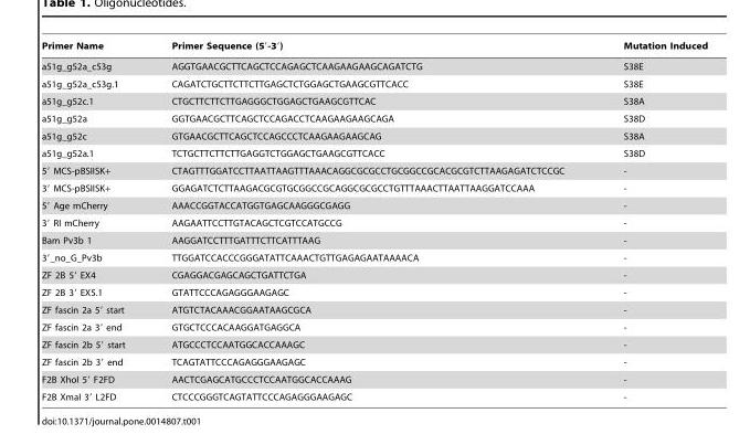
<table><thead><tr><td>Primer Name</td><td>Primer Sequence (5′-3′)</td><td>Mutation Induced</td></tr></thead><tbody><tr><td>a51g_g52a_c53g</td><td>AGGTGAACGCTTCAGCTCCAGAGCTCAAGAAGAAGCAGATCTG</td><td>S38E</td></tr><tr><td>a51g_g52a_c53g.1</td><td>CAGATCTGCTTCTTCTTGAGCTCTGGAGCTGAAGCGTTCACC</td><td>S38E</td></tr><tr><td>a51g_g52c.1</td><td>CTGCTTCTTCTTGAGGGCTGGAGCTGAAGCGTTCAC</td><td>S38A</td></tr><tr><td>a51g_g52a</td><td>GGTGAACGCTTCAGCTCCAGACCTCAAGAAGAAGCAGA</td><td>S38D</td></tr><tr><td>a51g_g52c</td><td>GTGAACGCTTCAGCTCCAGCCCTCAAGAAGAAGCAG</td><td>S38A</td></tr><tr><td>a51g_g52a.1</td><td>TCTGCTTCTTCTTGAGGTCTGGAGCTGAAGCGTTCACC</td><td>S38D</td></tr><tr><td>5′ MCS-pBSIISK+</td><td>CTAGTTTGGATCCTTAATTAAGTTTAAACAGGCGCGCCTGCGGCCGCACGCGTCTTAAGAGATCTCCGC</td><td>-</td></tr><tr><td>3′ MCS-pBSIISK+</td><td>GGAGATCTCTTAAGACGCGTGCGGCCGCAGGCGCGCCTGTTTAAACTTAATTAAGGATCCAAA</td><td>-</td></tr><tr><td>5′ Age mCherry</td><td>AAACCGGTACCATGGTGAGCAAGGGCGAGG</td><td>-</td></tr><tr><td>3′ RI mCherry</td><td>AAGAATTCCTTGTACAGCTCGTCCATGCCG</td><td>-</td></tr><tr><td>Bam Pv3b 1</td><td>AAGGATCCTTTGATTTCTTCATTTAAG</td><td>-</td></tr><tr><td>3′_no_G_Pv3b</td><td>TTGGATCCACCCGGGATATTCAAACTGTTGAGAGAATAAAACA</td><td>-</td></tr><tr><td>ZF 2B 5′ EX4</td><td>CGAGGACGAGCAGCTGATTCTGA</td><td>-</td></tr><tr><td>ZF 2B 3′ EX5.1</td><td>GTATTCCCAGAGGGAAGAGC</td><td>-</td></tr><tr><td>ZF fascin 2a 5′ start</td><td>ATGTCTACAAACGGAATAAGCGCA</td><td>-</td></tr><tr><td>ZF fascin 2a 3′ end</td><td>GTGCTCCCACAAGGATGAGGCA</td><td>-</td></tr><tr><td>ZF fascin 2b 5′ start</td><td>ATGCCCTCCAATGGCACCAAAGC</td><td>-</td></tr><tr><td>ZF fascin 2b 3′ end</td><td>TCAGTATTCCCAGAGGGAAGAGC</td><td>-</td></tr><tr><td>F2B XhoI 5′ F2FD</td><td>AACTCGAGCATGCCCTCCAATGGCACCAAAG</td><td>-</td></tr><tr><td>F2B XmaI 3′ L2FD</td><td>CTCCCGGGTCAGTATTCCCAGAGGGAAGAGC</td><td>-</td></tr></tbody></table>